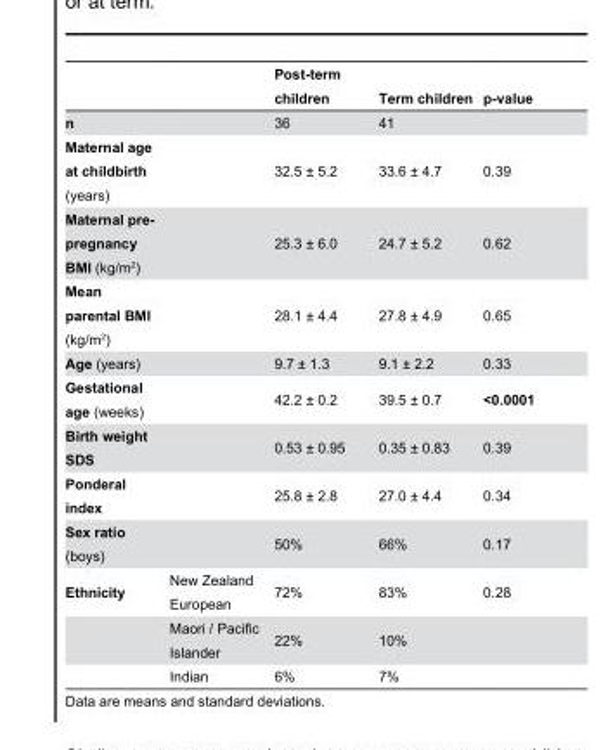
<table><thead><tr><td></td><td></td><td>Post-term children</td><td>Term children</td><td>p-value</td></tr></thead><tbody><tr><td>n</td><td></td><td>36</td><td>41</td><td></td></tr><tr><td>Maternal age at childbirth (years)</td><td></td><td>32.5 ± 5.2</td><td>33.6 ± 4.7</td><td>0.39</td></tr><tr><td>Maternal pre- pregnancy BMI (kg/m<sup>2</sup>)</td><td></td><td>25.3 ± 6.0</td><td>24.7 ± 5.2</td><td>0.62</td></tr><tr><td>Mean parental BMI (kg/m<sup>2</sup>)</td><td></td><td>28.1 ± 4.4</td><td>27.8 ± 4.9</td><td>0.65</td></tr><tr><td>Age (years)</td><td></td><td>9.7 ± 1.3</td><td>9.1 ± 2.2</td><td>0.33</td></tr><tr><td>Gestational age (weeks)</td><td></td><td>42.2 ± 0.2</td><td>39.5 ± 0.7</td><td>&lt;0.0001</td></tr><tr><td>Birth weight SDS</td><td></td><td>0.53 ± 0.95</td><td>0.35 ± 0.83</td><td>0.39</td></tr><tr><td>Ponderal index</td><td></td><td>25.8 ± 2.8</td><td>27.0 ± 4.4</td><td>0.34</td></tr><tr><td>Sex ratio (boys)</td><td></td><td>50%</td><td>66%</td><td>0.17</td></tr><tr><td rowspan="3">Ethnicity</td><td>New Zealand European</td><td>72%</td><td>83%</td><td>0.28</td></tr><tr><td>Maori / Pacific Islander</td><td>22%</td><td>10%</td><td></td></tr><tr><td>Indian</td><td>6%</td><td>7%</td><td></td></tr></tbody></table>